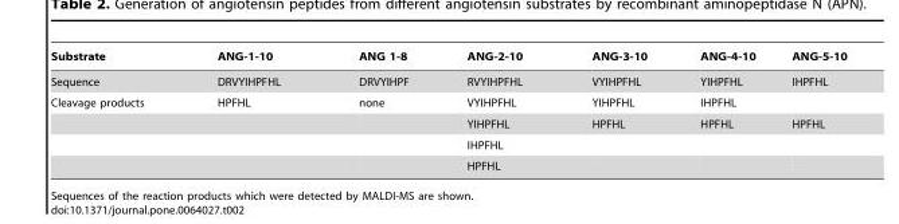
<table><thead><tr><td>Substrate</td><td>ANG-1-10</td><td>ANG 1-8</td><td>ANG-2-10</td><td>ANG-3-10</td><td>ANG-4-10</td><td>ANG-5-10</td></tr></thead><tbody><tr><td>Sequence</td><td>DRVYIHPFHL</td><td>DRVYIHPF</td><td>RVYIHPFHL</td><td>VYIHPFHL</td><td>YIHPFHL</td><td>IHPFHL</td></tr><tr><td rowspan="4">Cleavage products</td><td>HPFHL</td><td>none</td><td>VYIHPFHL</td><td>YIHPFHL</td><td>IHPFHL</td><td></td></tr><tr><td></td><td></td><td>YIHPFHL</td><td>HPFHL</td><td>HPFHL</td><td>HPFHL</td></tr><tr><td></td><td></td><td>IHPFHL</td><td></td><td></td><td></td></tr><tr><td></td><td></td><td>HPFHL</td><td></td><td></td><td></td></tr></tbody></table>